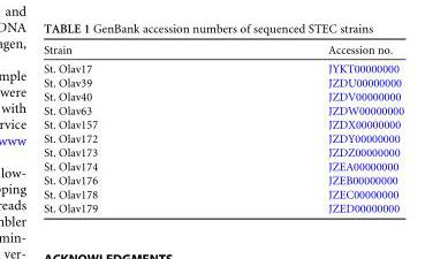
<table><thead><tr><td>Strain</td><td>Accession no.</td></tr></thead><tbody><tr><td>St. Olav17</td><td>JYKT00000000</td></tr><tr><td>St. Olav39</td><td>JZDU00000000</td></tr><tr><td>St. Olav40</td><td>JZDV00000000</td></tr><tr><td>St. Olav63</td><td>JZDW00000000</td></tr><tr><td>St. Olav157</td><td>JZDX00000000</td></tr><tr><td>St. Olav172</td><td>JZDY00000000</td></tr><tr><td>St. Olav173</td><td>JZDZ00000000</td></tr><tr><td>St. Olav174</td><td>JZEA00000000</td></tr><tr><td>St. Olav176</td><td>JZEB00000000</td></tr><tr><td>St. Olav178</td><td>JZEC00000000</td></tr><tr><td>St. Olav179</td><td>JZED00000000</td></tr></tbody></table>